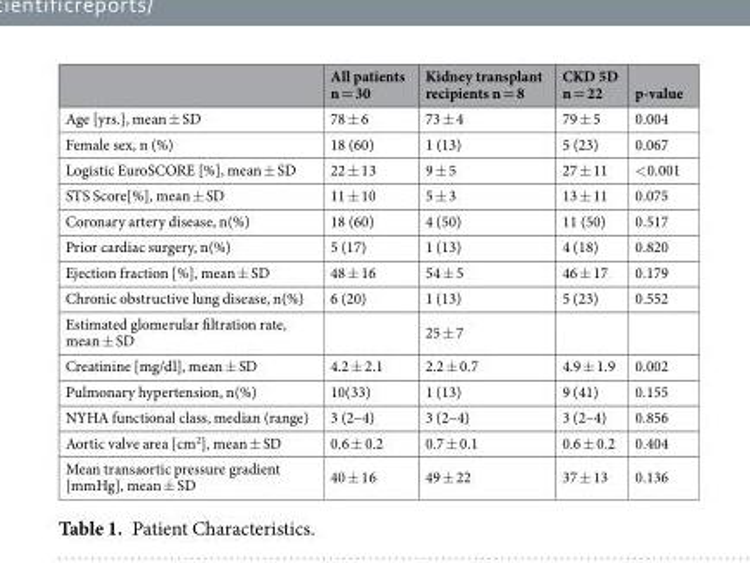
<table><thead><tr><td></td><td>All patients n = 30</td><td>Kidney transplant recipients n = 8</td><td>CKD 5D n = 22</td><td>p-value</td></tr></thead><tbody><tr><td>Age [yrs.], mean ± SD</td><td>78 ± 6</td><td>73 ± 4</td><td>79 ± 5</td><td>0.004</td></tr><tr><td>Female sex, n (%)</td><td>18 (60)</td><td>1 (13)</td><td>5 (23)</td><td>0.067</td></tr><tr><td>Logistic EuroSCORE [%], mean ± SD</td><td>22 ± 13</td><td>9 ± 5</td><td>27 ± 11</td><td>&lt;0.001</td></tr><tr><td>STS Score[%], mean ± SD</td><td>11 ± 10</td><td>5 ± 3</td><td>13 ± 11</td><td>0.075</td></tr><tr><td>Coronary artery disease, n(%)</td><td>18 (60)</td><td>4 (50)</td><td>11 (50)</td><td>0.517</td></tr><tr><td>Prior cardiac surgery, n(%)</td><td>5 (17)</td><td>1 (13)</td><td>4 (18)</td><td>0.820</td></tr><tr><td>Ejection fraction [%], mean ± SD</td><td>48 ± 16</td><td>54 ± 5</td><td>46 ± 17</td><td>0.179</td></tr><tr><td>Chronic obstructive lung disease, n(%)</td><td>6 (20)</td><td>1 (13)</td><td>5 (23)</td><td>0.552</td></tr><tr><td>Estimated glomerular filtration rate, mean ± SD</td><td></td><td>25 ± 7</td><td></td><td></td></tr><tr><td>Creatinine [mg/dl], mean ± SD</td><td>4.2 ± 2.1</td><td>2.2 ± 0.7</td><td>4.9 ± 1.9</td><td>0.002</td></tr><tr><td>Pulmonary hypertension, n(%)</td><td>10(33)</td><td>1 (13)</td><td>9 (41)</td><td>0.155</td></tr><tr><td>NYHA functional class, median (range)</td><td>3 (2–4)</td><td>3 (2–4)</td><td>3 (2–4)</td><td>0.856</td></tr><tr><td>Aortic valve area [cm<sup>2</sup>], mean ± SD</td><td>0.6 ± 0.2</td><td>0.7 ± 0.1</td><td>0.6 ± 0.2</td><td>0.404</td></tr><tr><td>Mean transaortic pressure gradient [mmHg], mean ± SD</td><td>40 ± 16</td><td>49 ± 22</td><td>37 ± 13</td><td>0.136</td></tr></tbody></table>